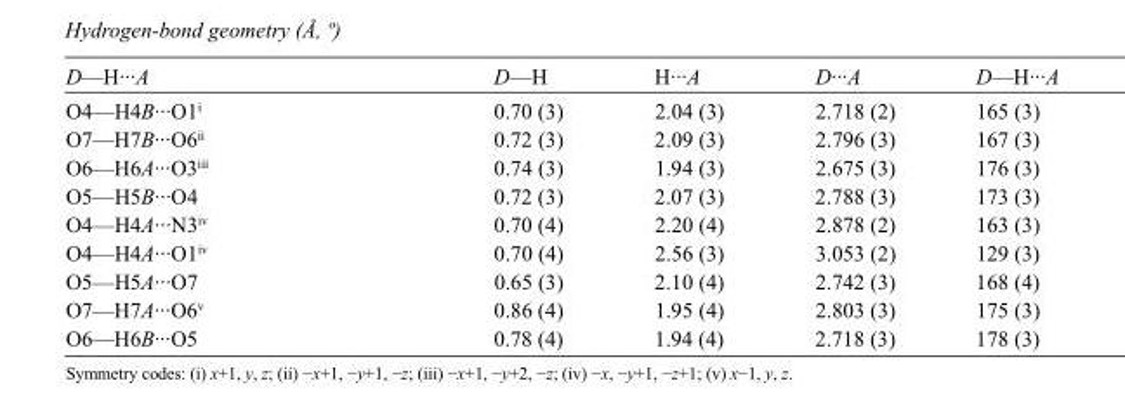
<table><tbody><tr><td>D—H···A</td><td>D—H</td><td>H···A</td><td>D···A</td><td>D—H···A</td></tr><tr><td>O4—H4B···O1<sup>i</sup></td><td>0.70 (3)</td><td>2.04 (3)</td><td>2.718 (2)</td><td>165 (3)</td></tr><tr><td>O7—H7B···O6<sup>ii</sup></td><td>0.72 (3)</td><td>2.09 (3)</td><td>2.796 (3)</td><td>167 (3)</td></tr><tr><td>O6—H6A···O3<sup>iii</sup></td><td>0.74 (3)</td><td>1.94 (3)</td><td>2.675 (3)</td><td>176 (3)</td></tr><tr><td>O5—H5B···O4</td><td>0.72 (3)</td><td>2.07 (3)</td><td>2.788 (3)</td><td>173 (3)</td></tr><tr><td>O4—H4A···N3<sup>iv</sup></td><td>0.70 (4)</td><td>2.20 (4)</td><td>2.878 (2)</td><td>163 (3)</td></tr><tr><td>O4—H4A···O1<sup>iv</sup></td><td>0.70 (4)</td><td>2.56 (3)</td><td>3.053 (2)</td><td>129 (3)</td></tr><tr><td>O5—H5A···O7</td><td>0.65 (3)</td><td>2.10 (4)</td><td>2.742 (3)</td><td>168 (4)</td></tr><tr><td>O7—H7A···O6<sup>v</sup></td><td>0.86 (4)</td><td>1.95 (4)</td><td>2.803 (3)</td><td>175 (3)</td></tr><tr><td>O6—H6B···O5</td><td>0.78 (4)</td><td>1.94 (4)</td><td>2.718 (3)</td><td>178 (3)</td></tr></tbody></table>